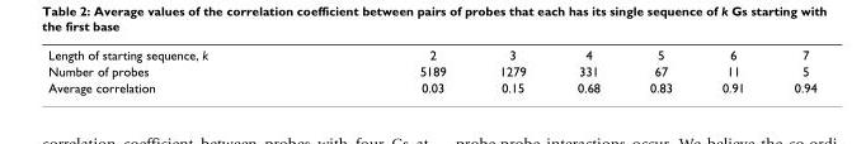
<table><tbody><tr><td>Length of starting sequence, k</td><td>2</td><td>3</td><td>4</td><td>5</td><td>6</td><td>7</td></tr><tr><td>Number of probes</td><td>5189</td><td>1279</td><td>331</td><td>67</td><td>11</td><td>5</td></tr><tr><td>Average correlation</td><td>0.03</td><td>0.15</td><td>0.68</td><td>0.83</td><td>0.91</td><td>0.94</td></tr></tbody></table>